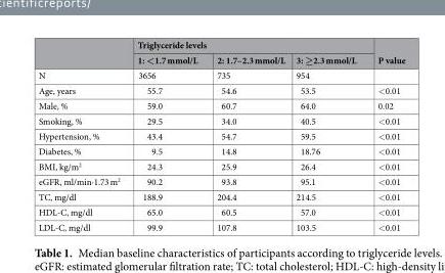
<table><thead><tr><td rowspan="2"></td><td colspan="3">Triglyceride levels</td><td rowspan="2">P value</td></tr><tr><td>1: &lt;1.7 mmol/L</td><td>2: 1.7–2.3 mmol/L</td><td>3: ≥2.3 mmol/L</td></tr></thead><tbody><tr><td>N</td><td>3656</td><td>735</td><td>954</td><td></td></tr><tr><td>Age, years</td><td>55.7</td><td>54.6</td><td>53.5</td><td>&lt;0.01</td></tr><tr><td>Male, %</td><td>59.0</td><td>60.7</td><td>64.0</td><td>0.02</td></tr><tr><td>Smoking, %</td><td>29.5</td><td>34.0</td><td>40.5</td><td>&lt;0.01</td></tr><tr><td>Hypertension, %</td><td>43.4</td><td>54.7</td><td>59.5</td><td>&lt;0.01</td></tr><tr><td>Diabetes, %</td><td>9.5</td><td>14.8</td><td>18.76</td><td>&lt;0.01</td></tr><tr><td>BMI, kg/m<sup>2</sup></td><td>24.3</td><td>25.9</td><td>26.4</td><td>&lt;0.01</td></tr><tr><td>eGFR, ml/min·1.73 m<sup>2</sup></td><td>90.2</td><td>93.8</td><td>95.1</td><td>&lt;0.01</td></tr><tr><td>TC, mg/dl</td><td>188.9</td><td>204.4</td><td>214.5</td><td>&lt;0.01</td></tr><tr><td>HDL-C, mg/dl</td><td>65.0</td><td>60.5</td><td>57.0</td><td>&lt;0.01</td></tr><tr><td>LDL-C, mg/dl</td><td>99.9</td><td>107.8</td><td>103.5</td><td>&lt;0.01</td></tr></tbody></table>